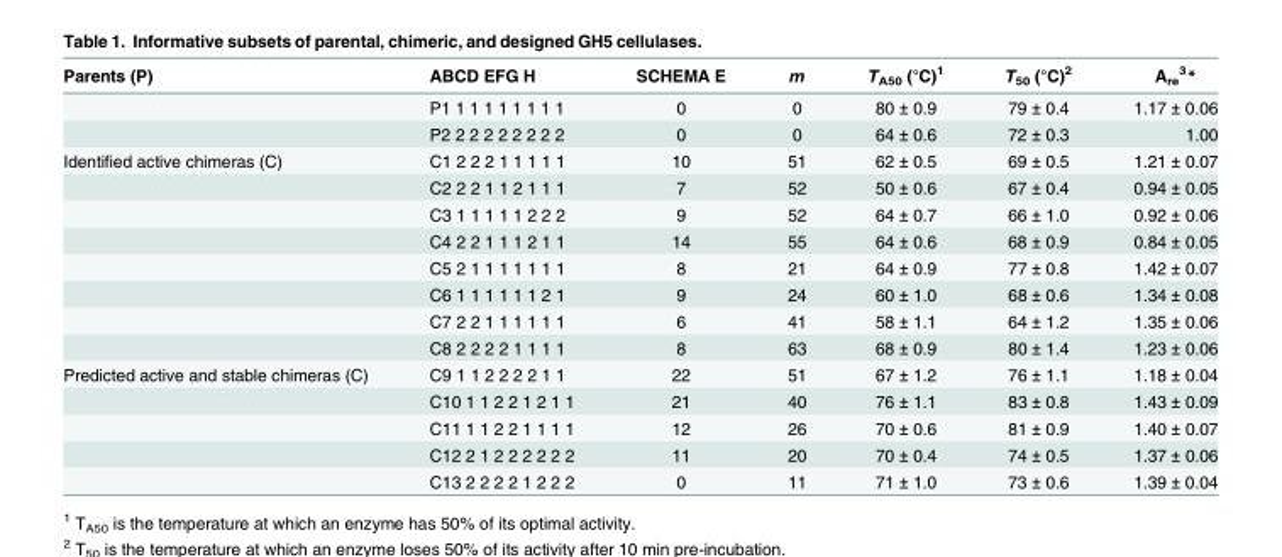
<table><thead><tr><td>Parents (P)</td><td>ABCD EFG H</td><td>SCHEMA E</td><td>m</td><td>T<sub>A50</sub> (°C)<sup>1</sup></td><td>T<sub>50</sub> (°C)<sup>2</sup></td><td>A<sub>re</sub> <sup>3</sup>*</td></tr></thead><tbody><tr><td></td><td>P1 1 1 1 1 1 1 1 1</td><td>0</td><td>0</td><td>80 ± 0.9</td><td>79 ± 0.4</td><td>1.17 ± 0.06</td></tr><tr><td></td><td>P2 2 2 2 2 2 2 2 2</td><td>0</td><td>0</td><td>64 ± 0.6</td><td>72 ± 0.3</td><td>1.00</td></tr><tr><td rowspan="8">Identified active chimeras (C)</td><td>C1 2 2 2 1 1 1 1 1</td><td>10</td><td>51</td><td>62 ± 0.5</td><td>69 ± 0.5</td><td>1.21 ± 0.07</td></tr><tr><td>C2 2 2 1 1 2 1 1 1</td><td>7</td><td>52</td><td>50 ± 0.6</td><td>67 ± 0.4</td><td>0.94 ± 0.05</td></tr><tr><td>C3 1 1 1 1 1 2 2 2</td><td>9</td><td>52</td><td>64 ± 0.7</td><td>66 ± 1.0</td><td>0.92 ± 0.06</td></tr><tr><td>C4 2 2 1 1 1 2 1 1</td><td>14</td><td>55</td><td>64 ± 0.6</td><td>68 ± 0.9</td><td>0.84 ± 0.05</td></tr><tr><td>C5 2 1 1 1 1 1 1 1</td><td>8</td><td>21</td><td>64 ± 0.9</td><td>77 ± 0.8</td><td>1.42 ± 0.07</td></tr><tr><td>C6 1 1 1 1 1 1 2 1</td><td>9</td><td>24</td><td>60 ± 1.0</td><td>68 ± 0.6</td><td>1.34 ± 0.08</td></tr><tr><td>C7 2 2 1 1 1 1 1 1</td><td>6</td><td>41</td><td>58 ± 1.1</td><td>64 ± 1.2</td><td>1.35 ± 0.06</td></tr><tr><td>C8 2 2 2 2 1 1 1 1</td><td>8</td><td>63</td><td>68 ± 0.9</td><td>80 ± 1.4</td><td>1.23 ± 0.06</td></tr><tr><td rowspan="5">Predicted active and stable chimeras (C)</td><td>C9 1 1 2 2 2 2 1 1</td><td>22</td><td>51</td><td>67 ± 1.2</td><td>76 ± 1.1</td><td>1.18 ± 0.04</td></tr><tr><td>C10 1 1 2 2 1 2 1 1</td><td>21</td><td>40</td><td>76 ± 1.1</td><td>83 ± 0.8</td><td>1.43 ± 0.09</td></tr><tr><td>C11 1 1 2 2 1 1 1 1</td><td>12</td><td>26</td><td>70 ± 0.6</td><td>81 ± 0.9</td><td>1.40 ± 0.07</td></tr><tr><td>C12 2 1 2 2 2 2 2 2</td><td>11</td><td>20</td><td>70 ± 0.4</td><td>74 ± 0.5</td><td>1.37 ± 0.06</td></tr><tr><td>C13 2 2 2 2 1 2 2 2</td><td>0</td><td>11</td><td>71 ± 1.0</td><td>73 ± 0.6</td><td>1.39 ± 0.04</td></tr></tbody></table>